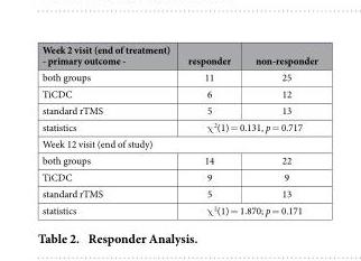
<table><thead><tr><td>Week 2 visit (end of treatment) - primary outcome -</td><td>responder</td><td>non-responder</td></tr></thead><tbody><tr><td>both groups</td><td>11</td><td>25</td></tr><tr><td>TiCDC</td><td>6</td><td>12</td></tr><tr><td>standard rTMS</td><td>5</td><td>13</td></tr><tr><td>statistics</td><td colspan="2">χ <sup>2</sup>(1) = 0.131, p = 0.717</td></tr><tr><td colspan="3">Week 12 visit (end of study)</td></tr><tr><td>both groups</td><td>14</td><td>22</td></tr><tr><td>TiCDC</td><td>9</td><td>9</td></tr><tr><td>standard rTMS</td><td>5</td><td>13</td></tr><tr><td>statistics</td><td colspan="2">χ <sup>2</sup>(1) = 1.870; p = 0.171</td></tr></tbody></table>